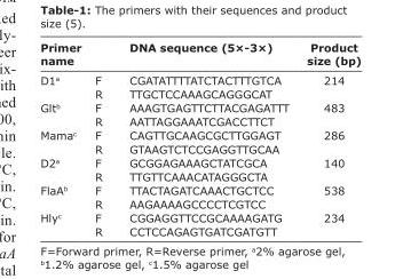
<table><thead><tr><td colspan="2">Primer name</td><td rowspan="2">DNA sequence (5×-3×) CGATATTTTATCTACTTTGTCA</td><td rowspan="2">Product size (bp) 214</td></tr><tr><td>D1<sup>a</sup></td><td>F</td></tr></thead><tbody><tr><td></td><td>R</td><td>TTGCTCCAAAGCAGGGCAT</td><td></td></tr><tr><td rowspan="2">Glt<sup>b</sup></td><td>F</td><td>AAAGTGAGTTCTTACGAGATTT</td><td>483</td></tr><tr><td>R</td><td>AATTAGGAAATCGACCTTCT</td><td></td></tr><tr><td rowspan="2">Mama<sup>c</sup></td><td>F</td><td>CAGTTGCAAGCGCTTGGAGT</td><td>286</td></tr><tr><td>R</td><td>GTAAGTCTCCGAGGTTGCAA</td><td></td></tr><tr><td rowspan="2">D2<sup>a</sup></td><td>F</td><td>GCGGAGAAAGCTATCGCA</td><td>140</td></tr><tr><td>R</td><td>TTGTTCAAACATAGGGCTA</td><td></td></tr><tr><td rowspan="2">FlaA<sup>b</sup></td><td>F</td><td>TTACTAGATCAAACTGCTCC</td><td>538</td></tr><tr><td>R</td><td>AAGAAAAGCCCCTCGTCC</td><td></td></tr><tr><td rowspan="2">Hly<sup>c</sup></td><td>F</td><td>CGGAGGTTCCGCAAAAGATG</td><td>234</td></tr><tr><td>R</td><td>CCTCCAGAGTGATCGATGTT</td><td></td></tr></tbody></table>